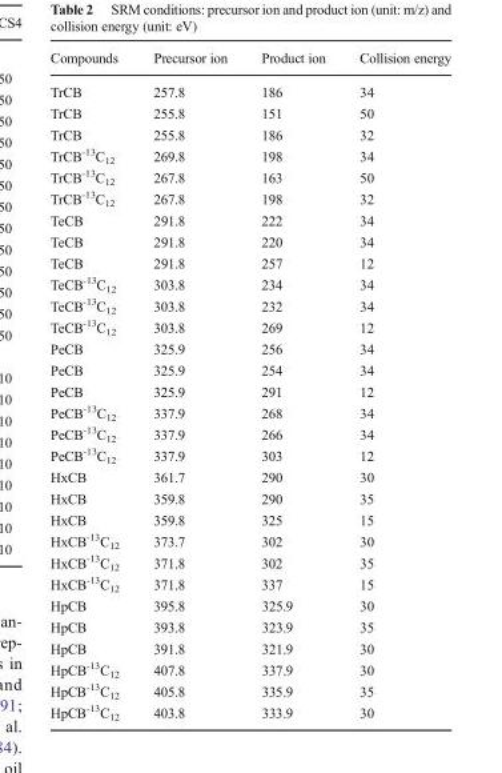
<table><thead><tr><td>Compounds</td><td>Precursor ion</td><td>Product ion</td><td>Collision energy</td></tr></thead><tbody><tr><td>TrCB</td><td>257.8</td><td>186</td><td>34</td></tr><tr><td>TrCB</td><td>255.8</td><td>151</td><td>50</td></tr><tr><td>TrCB</td><td>255.8</td><td>186</td><td>32</td></tr><tr><td>TrCB<sup>-13</sup>C<sub>12</sub></td><td>269.8</td><td>198</td><td>34</td></tr><tr><td>TrCB<sup>-13</sup>C<sub>12</sub></td><td>267.8</td><td>163</td><td>50</td></tr><tr><td>TrCB<sup>-13</sup>C<sub>12</sub></td><td>267.8</td><td>198</td><td>32</td></tr><tr><td>TeCB</td><td>291.8</td><td>222</td><td>34</td></tr><tr><td>TeCB</td><td>291.8</td><td>220</td><td>34</td></tr><tr><td>TeCB</td><td>291.8</td><td>257</td><td>12</td></tr><tr><td>TeCB<sup>-13</sup>C<sub>12</sub></td><td>303.8</td><td>234</td><td>34</td></tr><tr><td>TeCB<sup>-13</sup>C<sub>12</sub></td><td>303.8</td><td>232</td><td>34</td></tr><tr><td>TeCB<sup>-13</sup>C<sub>12</sub></td><td>303.8</td><td>269</td><td>12</td></tr><tr><td>PeCB</td><td>325.9</td><td>256</td><td>34</td></tr><tr><td>PeCB</td><td>325.9</td><td>254</td><td>34</td></tr><tr><td>PeCB</td><td>325.9</td><td>291</td><td>12</td></tr><tr><td>PeCB<sup>-13</sup>C<sub>12</sub></td><td>337.9</td><td>268</td><td>34</td></tr><tr><td>PeCB<sup>-13</sup>C<sub>12</sub></td><td>337.9</td><td>266</td><td>34</td></tr><tr><td>PeCB<sup>-13</sup>C<sub>12</sub></td><td>337.9</td><td>303</td><td>12</td></tr><tr><td>HxCB</td><td>361.7</td><td>290</td><td>30</td></tr><tr><td>HxCB</td><td>359.8</td><td>290</td><td>35</td></tr><tr><td>HxCB</td><td>359.8</td><td>325</td><td>15</td></tr><tr><td>HxCB<sup>-13</sup>C<sub>12</sub></td><td>373.7</td><td>302</td><td>30</td></tr><tr><td>HxCB<sup>-13</sup>C<sub>12</sub></td><td>371.8</td><td>302</td><td>35</td></tr><tr><td>HxCB<sup>-13</sup>C<sub>12</sub></td><td>371.8</td><td>337</td><td>15</td></tr><tr><td>HpCB</td><td>395.8</td><td>325.9</td><td>30</td></tr><tr><td>HpCB</td><td>393.8</td><td>323.9</td><td>35</td></tr><tr><td>HpCB</td><td>391.8</td><td>321.9</td><td>30</td></tr><tr><td>HpCB<sup>-13</sup>C<sub>12</sub></td><td>407.8</td><td>337.9</td><td>30</td></tr><tr><td>HpCB<sup>-13</sup>C<sub>12</sub></td><td>405.8</td><td>335.9</td><td>35</td></tr><tr><td>HpCB<sup>-13</sup>C<sub>12</sub></td><td>403.8</td><td>333.9</td><td>30</td></tr></tbody></table>